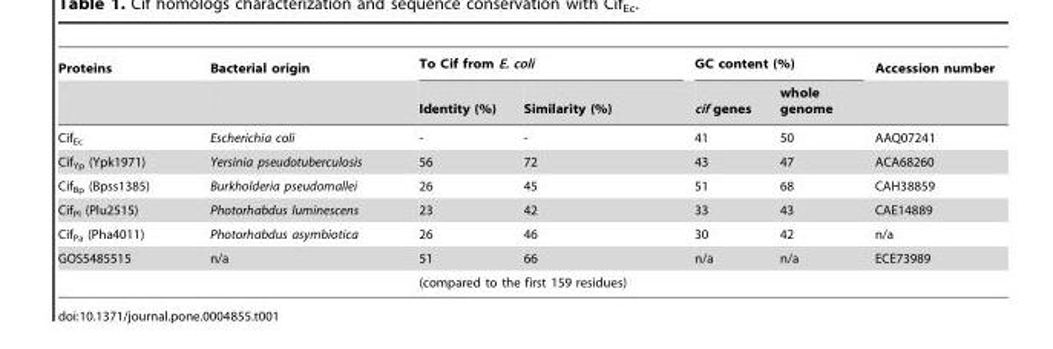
<table><thead><tr><td rowspan="2">Proteins</td><td rowspan="2">Bacterial origin</td><td colspan="2">To Cif from E. coli</td><td colspan="2">GC content (%)</td><td rowspan="2">Accession number</td></tr><tr><td>Identity (%)</td><td>Similarity (%)</td><td>cif genes</td><td>whole genome</td></tr></thead><tbody><tr><td>Cif<sub>Ec</sub></td><td>Escherichia coli</td><td>-</td><td>-</td><td>41</td><td>50</td><td>AAQ07241</td></tr><tr><td>Cif<sub>Yp</sub> (Ypk1971)</td><td>Yersinia pseudotuberculosis</td><td>56</td><td>72</td><td>43</td><td>47</td><td>ACA68260</td></tr><tr><td>Cif<sub>Bp</sub> (Bpss1385)</td><td>Burkholderia pseudomallei</td><td>26</td><td>45</td><td>51</td><td>68</td><td>CAH38859</td></tr><tr><td>Cif<sub>Pl</sub> (Plu2515)</td><td>Photorhabdus luminescens</td><td>23</td><td>42</td><td>33</td><td>43</td><td>CAE14889</td></tr><tr><td>Cif<sub>Pa</sub> (Pha4011)</td><td>Photorhabdus asymbiotica</td><td>26</td><td>46</td><td>30</td><td>42</td><td>n/a</td></tr><tr><td rowspan="2">GOS5485515</td><td>n/a</td><td>51</td><td>66</td><td>n/a</td><td>n/a</td><td>ECE73989</td></tr><tr><td></td><td colspan="2">(compared to the first 159 residues)</td><td></td><td></td><td></td></tr></tbody></table>